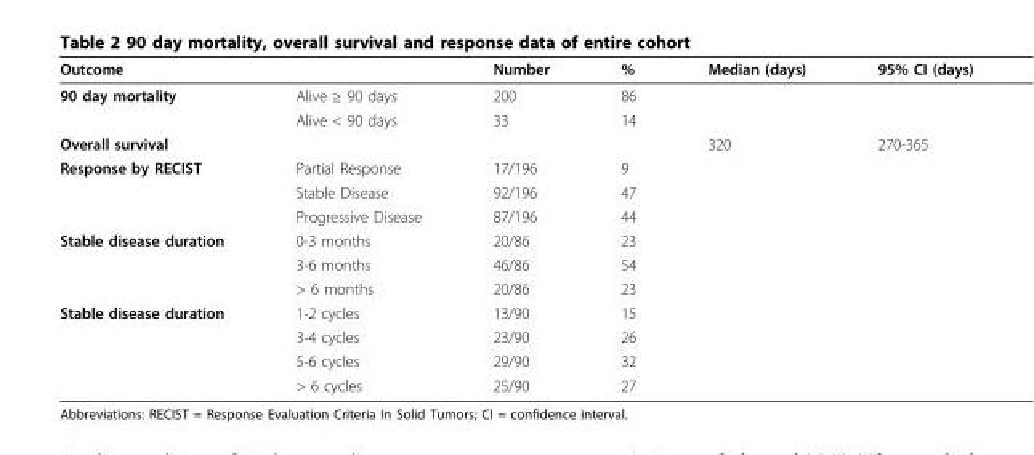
<table><thead><tr><td colspan="2">Outcome</td><td rowspan="2">Number 200</td><td rowspan="2">% 86</td><td rowspan="2">Median (days)</td><td rowspan="2">95% CI (days)</td></tr><tr><td>90 day mortality</td><td>Alive ≥ 90 days</td></tr></thead><tbody><tr><td></td><td>Alive &lt; 90 days</td><td>33</td><td>14</td><td></td><td></td></tr><tr><td>Overall survival</td><td></td><td></td><td></td><td>320</td><td>270-365</td></tr><tr><td rowspan="3">Response by RECIST</td><td>Partial Response</td><td>17/196</td><td>9</td><td></td><td></td></tr><tr><td>Stable Disease</td><td>92/196</td><td>47</td><td></td><td></td></tr><tr><td>Progressive Disease</td><td>87/196</td><td>44</td><td></td><td></td></tr><tr><td rowspan="3">Stable disease duration</td><td>0-3 months</td><td>20/86</td><td>23</td><td></td><td></td></tr><tr><td>3-6 months</td><td>46/86</td><td>54</td><td></td><td></td></tr><tr><td>&gt; 6 months</td><td>20/86</td><td>23</td><td></td><td></td></tr><tr><td rowspan="4">Stable disease duration</td><td>1-2 cycles</td><td>13/90</td><td>15</td><td></td><td></td></tr><tr><td>3-4 cycles</td><td>23/90</td><td>26</td><td></td><td></td></tr><tr><td>5-6 cycles</td><td>29/90</td><td>32</td><td></td><td></td></tr><tr><td>&gt; 6 cycles</td><td>25/90</td><td>27</td><td></td><td></td></tr></tbody></table>